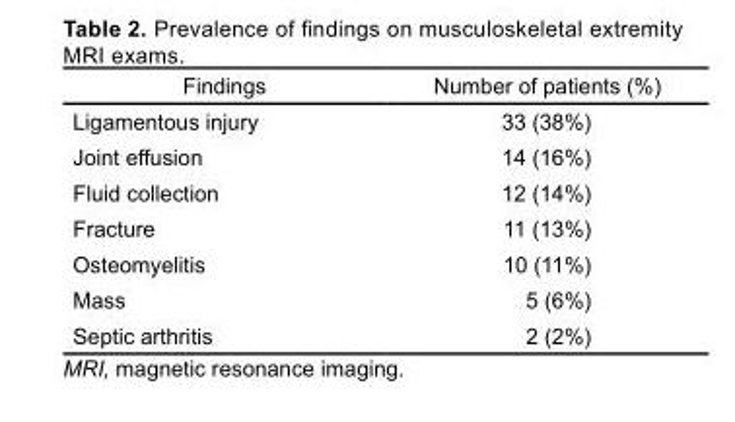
<table><thead><tr><td>Findings</td><td>Number of patients (%)</td></tr></thead><tbody><tr><td>Ligamentous injury</td><td>33 (38%)</td></tr><tr><td>Joint effusion</td><td>14 (16%)</td></tr><tr><td>Fluid collection</td><td>12 (14%)</td></tr><tr><td>Fracture</td><td>11 (13%)</td></tr><tr><td>Osteomyelitis</td><td>10 (11%)</td></tr><tr><td>Mass</td><td>5 (6%)</td></tr><tr><td>Septic arthritis</td><td>2 (2%)</td></tr></tbody></table>